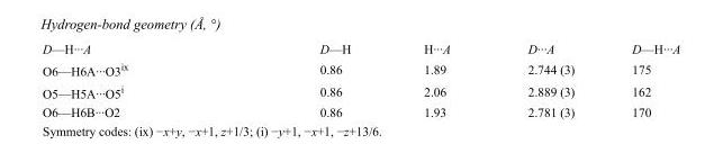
<table><tbody><tr><td>D—H···A</td><td>D—H</td><td>H···A</td><td>D···A</td><td>D—H···A</td></tr><tr><td>O6—H6A···O3<sup>ix</sup></td><td>0.86</td><td>1.89</td><td>2.744 (3)</td><td>175</td></tr><tr><td>O5—H5A···O5<sup>i</sup></td><td>0.86</td><td>2.06</td><td>2.889 (3)</td><td>162</td></tr><tr><td>O6—H6B···O2</td><td>0.86</td><td>1.93</td><td>2.781 (3)</td><td>170</td></tr></tbody></table>